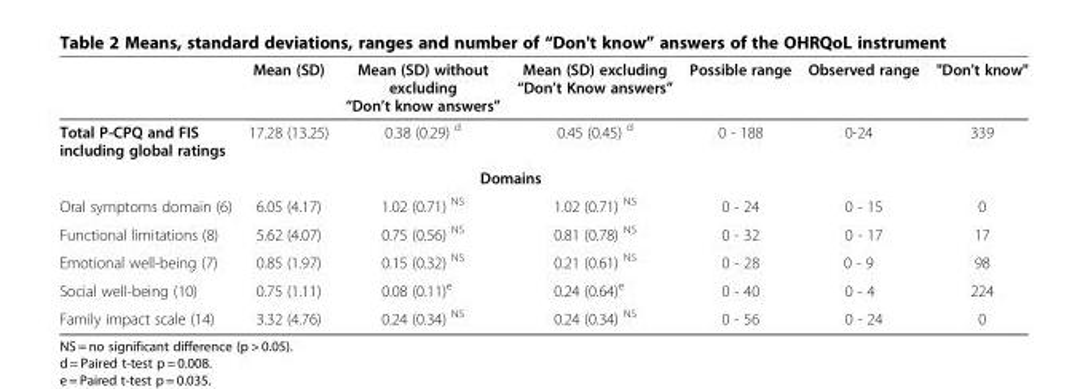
<table><thead><tr><td></td><td>Mean (SD)</td><td>Mean (SD) without excluding “Don’t know answers”</td><td>Mean (SD) excluding “Don’t Know answers”</td><td>Possible range</td><td>Observed range</td><td>&quot;Don&#x27;t know&quot;</td></tr></thead><tbody><tr><td>Total P-CPQ and FIS including global ratings</td><td>17.28 (13.25)</td><td>0.38 (0.29) <sup>d</sup></td><td>0.45 (0.45) <sup>d</sup></td><td>0 - 188</td><td>0-24</td><td>339</td></tr><tr><td colspan="7">Domains</td></tr><tr><td>Oral symptoms domain (6)</td><td>6.05 (4.17)</td><td>1.02 (0.71) <sup>NS</sup></td><td>1.02 (0.71) <sup>NS</sup></td><td>0 - 24</td><td>0 - 15</td><td>0</td></tr><tr><td>Functional limitations (8)</td><td>5.62 (4.07)</td><td>0.75 (0.56) <sup>NS</sup></td><td>0.81 (0.78) <sup>NS</sup></td><td>0 - 32</td><td>0 - 17</td><td>17</td></tr><tr><td>Emotional well-being (7)</td><td>0.85 (1.97)</td><td>0.15 (0.32) <sup>NS</sup></td><td>0.21 (0.61) <sup>NS</sup></td><td>0 - 28</td><td>0 - 9</td><td>98</td></tr><tr><td>Social well-being (10)</td><td>0.75 (1.11)</td><td>0.08 (0.11)<sup>e</sup></td><td>0.24 (0.64)<sup>e</sup></td><td>0 - 40</td><td>0 - 4</td><td>224</td></tr><tr><td>Family impact scale (14)</td><td>3.32 (4.76)</td><td>0.24 (0.34) <sup>NS</sup></td><td>0.24 (0.34) <sup>NS</sup></td><td>0 - 56</td><td>0 - 24</td><td>0</td></tr></tbody></table>